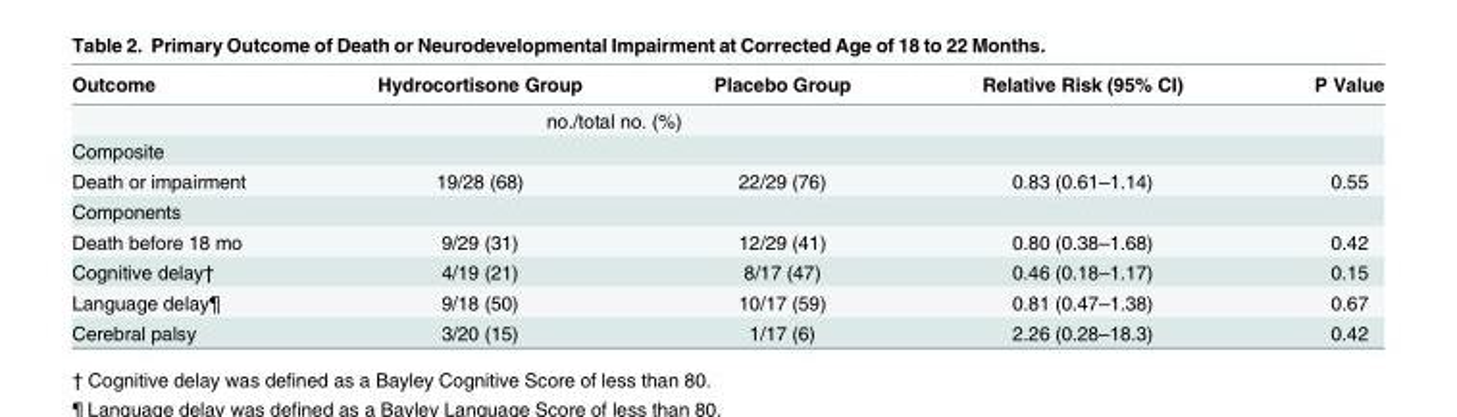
<table><thead><tr><td>Outcome</td><td>Hydrocortisone Group</td><td>Placebo Group</td><td>Relative Risk (95% CI)</td><td>P Value</td></tr></thead><tbody><tr><td></td><td colspan="2">no./total no. (%)</td><td colspan="2"></td></tr><tr><td colspan="5">Composite</td></tr><tr><td>Death or impairment</td><td>19/28 (68)</td><td>22/29 (76)</td><td>0.83 (0.61–1.14)</td><td>0.55</td></tr><tr><td colspan="5">Components</td></tr><tr><td>Death before 18 mo</td><td>9/29 (31)</td><td>12/29 (41)</td><td>0.80 (0.38–1.68)</td><td>0.42</td></tr><tr><td>Cognitive delay†</td><td>4/19 (21)</td><td>8/17 (47)</td><td>0.46 (0.18–1.17)</td><td>0.15</td></tr><tr><td>Language delay¶</td><td>9/18 (50)</td><td>10/17 (59)</td><td>0.81 (0.47–1.38)</td><td>0.67</td></tr><tr><td>Cerebral palsy</td><td>3/20 (15)</td><td>1/17 (6)</td><td>2.26 (0.28–18.3)</td><td>0.42</td></tr></tbody></table>